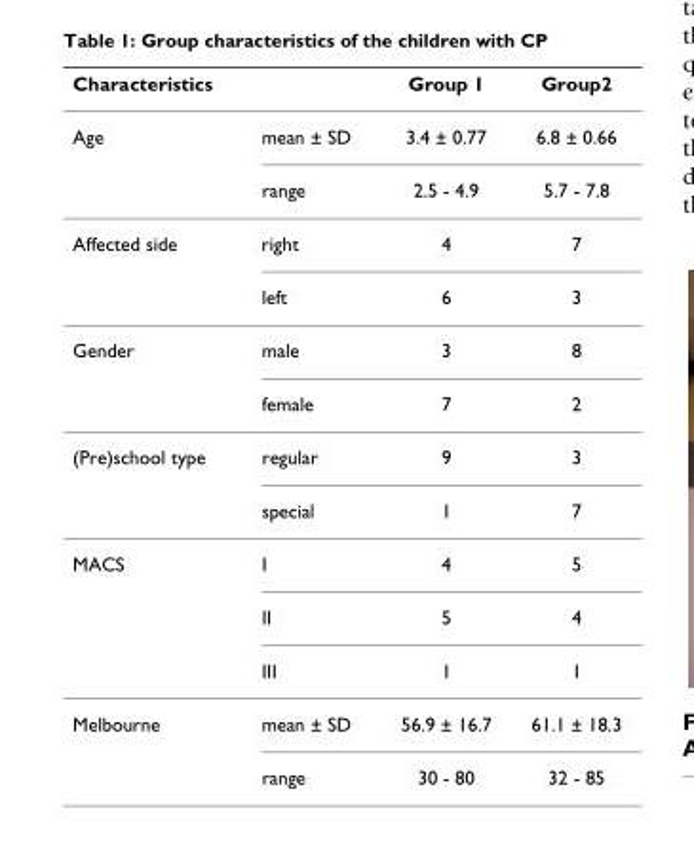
<table><thead><tr><td>Characteristics</td><td></td><td>Group 1</td><td>Group2</td></tr></thead><tbody><tr><td rowspan="2">Age</td><td>mean ± SD</td><td>3.4 ± 0.77</td><td>6.8 ± 0.66</td></tr><tr><td>range</td><td>2.5 - 4.9</td><td>5.7 - 7.8</td></tr><tr><td rowspan="2">Affected side</td><td>right</td><td>4</td><td>7</td></tr><tr><td>left</td><td>6</td><td>3</td></tr><tr><td rowspan="2">Gender</td><td>male</td><td>3</td><td>8</td></tr><tr><td>female</td><td>7</td><td>2</td></tr><tr><td rowspan="2">(Pre)school type</td><td>regular</td><td>9</td><td>3</td></tr><tr><td>special</td><td>1</td><td>7</td></tr><tr><td rowspan="3">MACS</td><td>I</td><td>4</td><td>5</td></tr><tr><td>II</td><td>5</td><td>4</td></tr><tr><td>III</td><td>1</td><td>1</td></tr><tr><td rowspan="2">Melbourne</td><td>mean ± SD</td><td>56.9 ± 16.7</td><td>61.1 ± 18.3</td></tr><tr><td>range</td><td>30 - 80</td><td>32 - 85</td></tr></tbody></table>